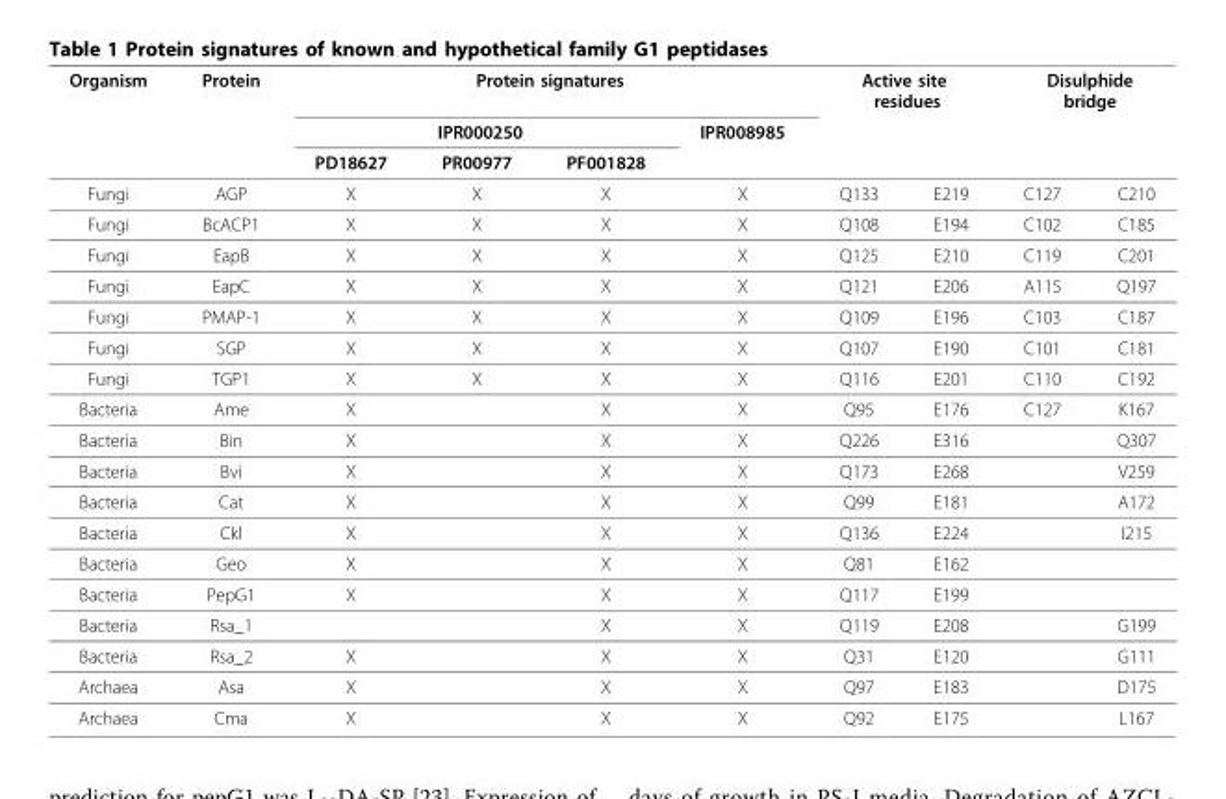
<table><thead><tr><td rowspan="3">Organism</td><td rowspan="3">Protein</td><td colspan="4">Protein signatures</td><td colspan="2">Active site residues</td><td colspan="2">Disulphide bridge</td></tr><tr><td colspan="3">IPR000250</td><td rowspan="2">IPR008985</td><td rowspan="2"></td><td rowspan="2"></td><td rowspan="2"></td><td rowspan="2"></td></tr><tr><td>PD18627</td><td>PR00977</td><td>PF001828</td></tr></thead><tbody><tr><td>Fungi</td><td>AGP</td><td>X</td><td>X</td><td>X</td><td>X</td><td>Q133</td><td>E219</td><td>C127</td><td>C210</td></tr><tr><td>Fungi</td><td>BcACP1</td><td>X</td><td>X</td><td>X</td><td>X</td><td>Q108</td><td>E194</td><td>C102</td><td>C185</td></tr><tr><td>Fungi</td><td>EapB</td><td>X</td><td>X</td><td>X</td><td>X</td><td>Q125</td><td>E210</td><td>C119</td><td>C201</td></tr><tr><td>Fungi</td><td>EapC</td><td>X</td><td>X</td><td>X</td><td>X</td><td>Q121</td><td>E206</td><td>A115</td><td>Q197</td></tr><tr><td>Fungi</td><td>PMAP-1</td><td>X</td><td>X</td><td>X</td><td>X</td><td>Q109</td><td>E196</td><td>C103</td><td>C187</td></tr><tr><td>Fungi</td><td>SGP</td><td>X</td><td>X</td><td>X</td><td>X</td><td>Q107</td><td>E190</td><td>C101</td><td>C181</td></tr><tr><td>Fungi</td><td>TGP1</td><td>X</td><td>X</td><td>X</td><td>X</td><td>Q116</td><td>E201</td><td>C110</td><td>C192</td></tr><tr><td>Bacteria</td><td>Ame</td><td>X</td><td></td><td>X</td><td>X</td><td>Q95</td><td>E176</td><td>C127</td><td>K167</td></tr><tr><td>Bacteria</td><td>Bin</td><td>X</td><td></td><td>X</td><td>X</td><td>Q226</td><td>E316</td><td></td><td>Q307</td></tr><tr><td>Bacteria</td><td>Bvi</td><td>X</td><td></td><td>X</td><td>X</td><td>Q173</td><td>E268</td><td></td><td>V259</td></tr><tr><td>Bacteria</td><td>Cat</td><td>X</td><td></td><td>X</td><td>X</td><td>Q99</td><td>E181</td><td></td><td>A172</td></tr><tr><td>Bacteria</td><td>Ckl</td><td>X</td><td></td><td>X</td><td>X</td><td>Q136</td><td>E224</td><td></td><td>I215</td></tr><tr><td>Bacteria</td><td>Geo</td><td>X</td><td></td><td>X</td><td>X</td><td>Q81</td><td>E162</td><td></td><td></td></tr><tr><td>Bacteria</td><td>PepG1</td><td>X</td><td></td><td>X</td><td>X</td><td>Q117</td><td>E199</td><td></td><td></td></tr><tr><td>Bacteria</td><td>Rsa_1</td><td></td><td></td><td>X</td><td>X</td><td>Q119</td><td>E208</td><td></td><td>G199</td></tr><tr><td>Bacteria</td><td>Rsa_2</td><td>X</td><td></td><td>X</td><td>X</td><td>Q31</td><td>E120</td><td></td><td>G111</td></tr><tr><td>Archaea</td><td>Asa</td><td>X</td><td></td><td>X</td><td>X</td><td>Q97</td><td>E183</td><td></td><td>D175</td></tr><tr><td>Archaea</td><td>Cma</td><td>X</td><td></td><td>X</td><td>X</td><td>Q92</td><td>E175</td><td></td><td>L167</td></tr></tbody></table>